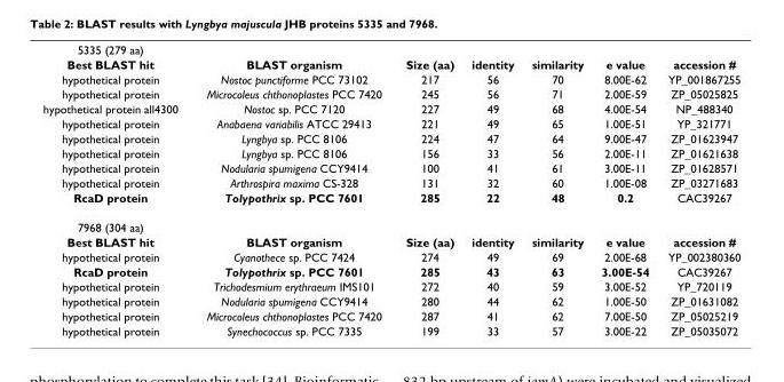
<table><tbody><tr><td colspan="7">5335 (279 aa)</td></tr><tr><td>Best BLAST hit</td><td>BLAST organism</td><td>Size (aa)</td><td>identity</td><td>similarity</td><td>e value</td><td>accession #</td></tr><tr><td>hypothetical protein</td><td>Nostoc punctiforme PCC 73102</td><td>217</td><td>56</td><td>70</td><td>8.00E-62</td><td>YP_001867255</td></tr><tr><td>hypothetical protein</td><td>Microcoleus chthonoplastes PCC 7420</td><td>245</td><td>56</td><td>71</td><td>2.00E-59</td><td>ZP_05025825</td></tr><tr><td>hypothetical protein all4300</td><td>Nostoc sp. PCC 7120</td><td>227</td><td>49</td><td>68</td><td>4.00E-54</td><td>NP_488340</td></tr><tr><td>hypothetical protein</td><td>Anabaena variabilis ATCC 29413</td><td>221</td><td>49</td><td>65</td><td>1.00E-51</td><td>YP_321771</td></tr><tr><td>hypothetical protein</td><td>Lyngbya sp. PCC 8106</td><td>224</td><td>47</td><td>64</td><td>9.00E-47</td><td>ZP_01623947</td></tr><tr><td>hypothetical protein</td><td>Lyngbya sp. PCC 8106</td><td>156</td><td>33</td><td>56</td><td>2.00E-11</td><td>ZP_01621638</td></tr><tr><td>hypothetical protein</td><td>Nodularia spumigena CCY9414</td><td>100</td><td>41</td><td>61</td><td>3.00E-11</td><td>ZP_01628571</td></tr><tr><td>hypothetical protein</td><td>Arthrospira maxima CS-328</td><td>131</td><td>32</td><td>60</td><td>1.00E-08</td><td>ZP_03271683</td></tr><tr><td>RcaD protein</td><td>Tolypothrix sp. PCC 7601</td><td>285</td><td>22</td><td>48</td><td>0.2</td><td>CAC39267</td></tr><tr><td colspan="7">7968 (304 aa)</td></tr><tr><td>Best BLAST hit</td><td>BLAST organism</td><td>Size (aa)</td><td>identity</td><td>similarity</td><td>e value</td><td>accession #</td></tr><tr><td>hypothetical protein</td><td>Cyanothece sp. PCC 7424</td><td>274</td><td>49</td><td>69</td><td>2.00E-68</td><td>YP_002380360</td></tr><tr><td>RcaD protein</td><td>Tolypothrix sp. PCC 7601</td><td>285</td><td>43</td><td>63</td><td>3.00E-54</td><td>CAC39267</td></tr><tr><td>hypothetical protein</td><td>Trichodesmium erythraeum IMS101</td><td>272</td><td>40</td><td>59</td><td>3.00E-52</td><td>YP_720119</td></tr><tr><td>hypothetical protein</td><td>Nodularia spumigena CCY9414</td><td>280</td><td>44</td><td>62</td><td>1.00E-50</td><td>ZP_01631082</td></tr><tr><td>hypothetical protein</td><td>Microcoleus chthonoplastes PCC 7420</td><td>287</td><td>41</td><td>62</td><td>7.00E-50</td><td>ZP_05025219</td></tr><tr><td>hypothetical protein</td><td>Synechococcus sp. PCC 7335</td><td>199</td><td>33</td><td>57</td><td>3.00E-22</td><td>ZP_05035072</td></tr></tbody></table>